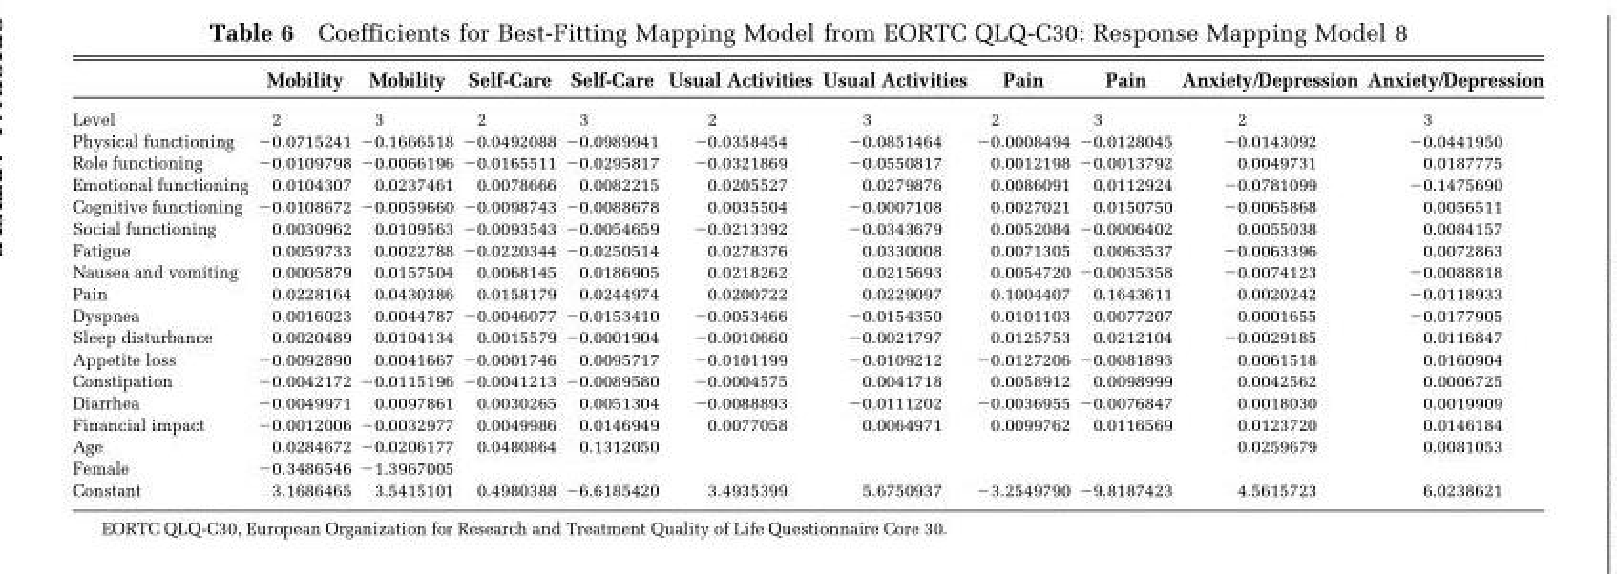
<table><thead><tr><td></td><td>Mobility</td><td>Mobility</td><td>Self-Care</td><td>Self-Care</td><td>Usual Activities</td><td>Usual Activities</td><td>Pain</td><td>Pain</td><td>Anxiety/Depression</td><td>Anxiety/Depression</td></tr></thead><tbody><tr><td>Level</td><td>2</td><td>3</td><td>2</td><td>3</td><td>2</td><td>3</td><td>2</td><td>3</td><td>2</td><td>3</td></tr><tr><td>Physical functioning</td><td>−0.0715241</td><td>−0.1666518</td><td>−0.0492088</td><td>−0.0989941</td><td>−0.0358454</td><td>−0.0851464</td><td>−0.0008494</td><td>−0.0128045</td><td>−0.0143092</td><td>−0.0441950</td></tr><tr><td>Role functioning</td><td>−0.0109798</td><td>−0.0066196</td><td>−0.0165511</td><td>−0.0295817</td><td>−0.0321869</td><td>−0.0550817</td><td>0.0012198</td><td>−0.0013792</td><td>0.0049731</td><td>0.0187775</td></tr><tr><td>Emotional functioning</td><td>0.0104307</td><td>0.0237461</td><td>0.0078666</td><td>0.0082215</td><td>0.0205527</td><td>0.0279876</td><td>0.0086091</td><td>0.0112924</td><td>−0.0781099</td><td>−0.1475690</td></tr><tr><td>Cognitive functioning</td><td>−0.0108672</td><td>−0.0059660</td><td>−0.0098743</td><td>−0.0088678</td><td>0.0035504</td><td>−0.0007108</td><td>0.0027021</td><td>0.0150750</td><td>−0.0065868</td><td>0.0056511</td></tr><tr><td>Social functioning</td><td>0.0030962</td><td>0.0109563</td><td>−0.0093543</td><td>−0.0054659</td><td>−0.0213392</td><td>−0.0343679</td><td>0.0052084</td><td>−0.0006402</td><td>0.0055038</td><td>0.0084157</td></tr><tr><td>Fatigue</td><td>0.0059733</td><td>0.0022788</td><td>−0.0220344</td><td>−0.0250514</td><td>0.0278376</td><td>0.0330008</td><td>0.0071305</td><td>0.0063537</td><td>−0.0063396</td><td>0.0072863</td></tr><tr><td>Nausea and vomiting</td><td>0.0005879</td><td>0.0157504</td><td>0.0068145</td><td>0.0186905</td><td>0.0218262</td><td>0.0215693</td><td>0.0054720</td><td>−0.0035358</td><td>−0.0074123</td><td>−0.0088818</td></tr><tr><td>Pain</td><td>0.0228164</td><td>0.0430386</td><td>0.0158179</td><td>0.0244974</td><td>0.0200722</td><td>0.0229097</td><td>0.1004407</td><td>0.1643611</td><td>0.0020242</td><td>−0.0118933</td></tr><tr><td>Dyspnea</td><td>0.0016023</td><td>0.0044787</td><td>−0.0046077</td><td>−0.0153410</td><td>−0.0053466</td><td>−0.0154350</td><td>0.0101103</td><td>0.0077207</td><td>0.0001655</td><td>−0.0177905</td></tr><tr><td>Sleep disturbance</td><td>0.0020489</td><td>0.0104134</td><td>0.0015579</td><td>−0.0001904</td><td>−0.0010660</td><td>−0.0021797</td><td>0.0125753</td><td>0.0212104</td><td>−0.0029185</td><td>0.0116847</td></tr><tr><td>Appetite loss</td><td>−0.0092890</td><td>0.0041667</td><td>−0.0001746</td><td>0.0095717</td><td>−0.0101199</td><td>−0.0109212</td><td>−0.0127206</td><td>−0.0081893</td><td>0.0061518</td><td>0.0160904</td></tr><tr><td>Constipation</td><td>−0.0042172</td><td>−0.0115196</td><td>−0.0041213</td><td>−0.0089580</td><td>−0.0004575</td><td>0.0041718</td><td>0.0058912</td><td>0.0098999</td><td>0.0042562</td><td>0.0006725</td></tr><tr><td>Diarrhea</td><td>−0.0049971</td><td>0.0097861</td><td>0.0030265</td><td>0.0051304</td><td>−0.0088893</td><td>−0.0111202</td><td>−0.0036955</td><td>−0.0076847</td><td>0.0018030</td><td>0.0019909</td></tr><tr><td>Financial impact</td><td>−0.0012006</td><td>−0.0032977</td><td>0.0049986</td><td>0.0146949</td><td>0.0077058</td><td>0.0064971</td><td>0.0099762</td><td>0.0116569</td><td>0.0123720</td><td>0.0146184</td></tr><tr><td>Age</td><td>0.0284672</td><td>−0.0206177</td><td>0.0480864</td><td>0.1312050</td><td></td><td></td><td></td><td></td><td>0.0259679</td><td>0.0081053</td></tr><tr><td>Female</td><td>−0.3486546</td><td>−1.3967005</td><td></td><td></td><td></td><td></td><td></td><td></td><td></td><td></td></tr><tr><td>Constant</td><td>3.1686465</td><td>3.5415101</td><td>0.4980388</td><td>−6.6185420</td><td>3.4935399</td><td>5.6750937</td><td>−3.2549790</td><td>−9.8187423</td><td>4.5615723</td><td>6.0238621</td></tr></tbody></table>